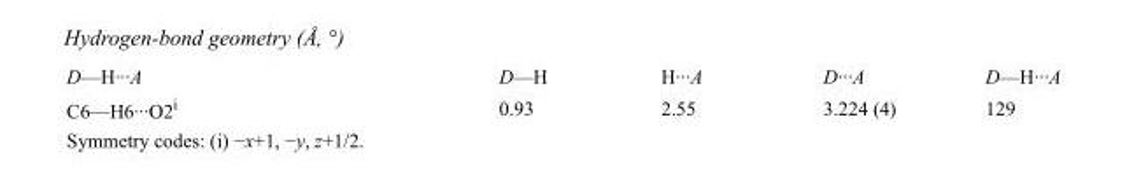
<table><tbody><tr><td>D—H···A</td><td>D—H</td><td>H···A</td><td>D···A</td><td>D—H···A</td></tr><tr><td>C6—H6···O2<sup>i</sup></td><td>0.93</td><td>2.55</td><td>3.224 (4)</td><td>129</td></tr></tbody></table>